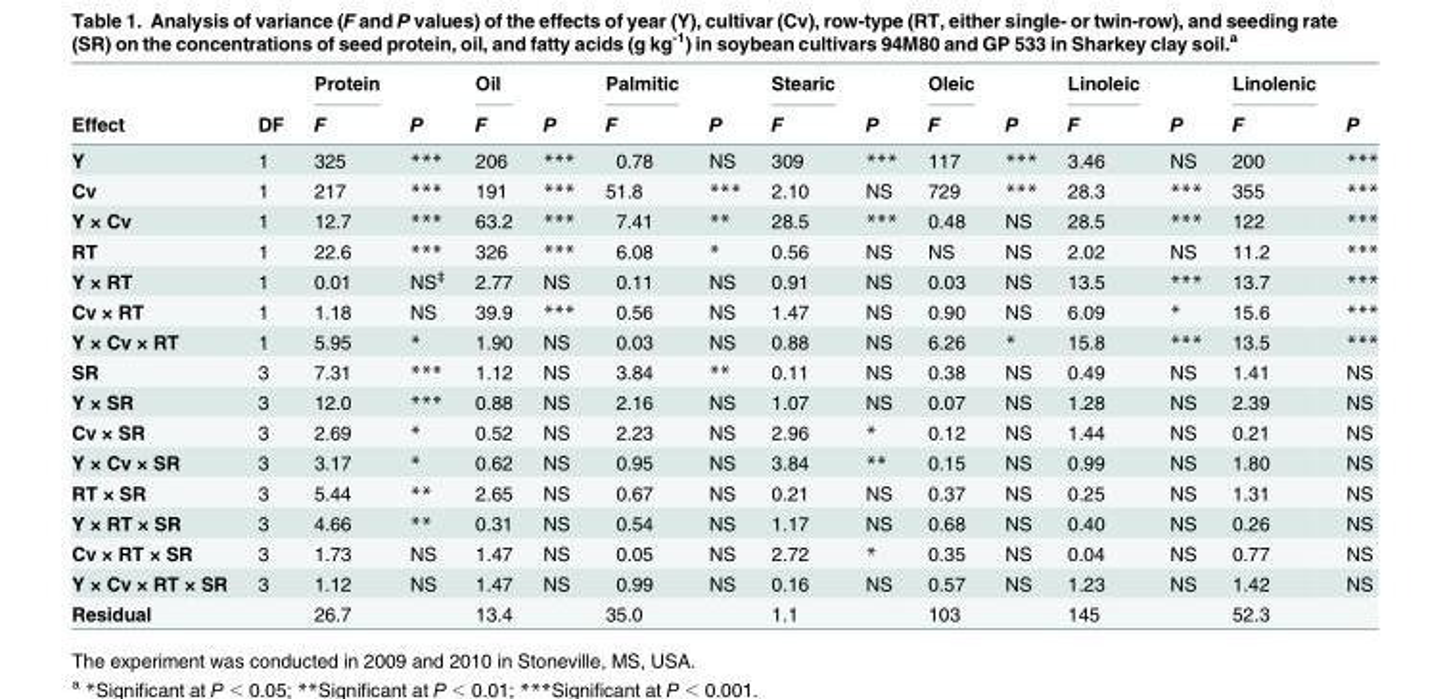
<table><thead><tr><td rowspan="2">Effect</td><td rowspan="2">DF</td><td rowspan="2">Protein F</td><td rowspan="2">P</td><td rowspan="2">Oil F</td><td rowspan="2">P</td><td rowspan="2">Palmitic F</td><td rowspan="2">P</td><td rowspan="2">Stearic F</td><td rowspan="2">P</td><td rowspan="2">Oleic F</td><td rowspan="2">P</td><td rowspan="2">Linoleic F</td><td rowspan="2">P</td><td rowspan="2">Linolenic F</td><td rowspan="2">P</td></tr><tr></tr></thead><tbody><tr><td>Y</td><td>1</td><td>325</td><td>***</td><td>206</td><td>***</td><td>0.78</td><td>NS</td><td>309</td><td>***</td><td>117</td><td>***</td><td>3.46</td><td>NS</td><td>200</td><td>***</td></tr><tr><td>Cv</td><td>1</td><td>217</td><td>***</td><td>191</td><td>***</td><td>51.8</td><td>***</td><td>2.10</td><td>NS</td><td>729</td><td>***</td><td>28.3</td><td>***</td><td>355</td><td>***</td></tr><tr><td>Y × Cv</td><td>1</td><td>12.7</td><td>***</td><td>63.2</td><td>***</td><td>7.41</td><td>**</td><td>28.5</td><td>***</td><td>0.48</td><td>NS</td><td>28.5</td><td>***</td><td>122</td><td>***</td></tr><tr><td>RT</td><td>1</td><td>22.6</td><td>***</td><td>326</td><td>***</td><td>6.08</td><td>*</td><td>0.56</td><td>NS</td><td>NS</td><td>NS</td><td>2.02</td><td>NS</td><td>11.2</td><td>***</td></tr><tr><td>Y × RT</td><td>1</td><td>0.01</td><td>NS<sup>‡</sup></td><td>2.77</td><td>NS</td><td>0.11</td><td>NS</td><td>0.91</td><td>NS</td><td>0.03</td><td>NS</td><td>13.5</td><td>***</td><td>13.7</td><td>***</td></tr><tr><td>Cv × RT</td><td>1</td><td>1.18</td><td>NS</td><td>39.9</td><td>***</td><td>0.56</td><td>NS</td><td>1.47</td><td>NS</td><td>0.90</td><td>NS</td><td>6.09</td><td>*</td><td>15.6</td><td>***</td></tr><tr><td>Y × Cv × RT</td><td>1</td><td>5.95</td><td>*</td><td>1.90</td><td>NS</td><td>0.03</td><td>NS</td><td>0.88</td><td>NS</td><td>6.26</td><td>*</td><td>15.8</td><td>***</td><td>13.5</td><td>***</td></tr><tr><td>SR</td><td>3</td><td>7.31</td><td>***</td><td>1.12</td><td>NS</td><td>3.84</td><td>**</td><td>0.11</td><td>NS</td><td>0.38</td><td>NS</td><td>0.49</td><td>NS</td><td>1.41</td><td>NS</td></tr><tr><td>Y × SR</td><td>3</td><td>12.0</td><td>***</td><td>0.88</td><td>NS</td><td>2.16</td><td>NS</td><td>1.07</td><td>NS</td><td>0.07</td><td>NS</td><td>1.28</td><td>NS</td><td>2.39</td><td>NS</td></tr><tr><td>Cv × SR</td><td>3</td><td>2.69</td><td>*</td><td>0.52</td><td>NS</td><td>2.23</td><td>NS</td><td>2.96</td><td>*</td><td>0.12</td><td>NS</td><td>1.44</td><td>NS</td><td>0.21</td><td>NS</td></tr><tr><td>Y × Cv × SR</td><td>3</td><td>3.17</td><td>*</td><td>0.62</td><td>NS</td><td>0.95</td><td>NS</td><td>3.84</td><td>**</td><td>0.15</td><td>NS</td><td>0.99</td><td>NS</td><td>1.80</td><td>NS</td></tr><tr><td>RT × SR</td><td>3</td><td>5.44</td><td>**</td><td>2.65</td><td>NS</td><td>0.67</td><td>NS</td><td>0.21</td><td>NS</td><td>0.37</td><td>NS</td><td>0.25</td><td>NS</td><td>1.31</td><td>NS</td></tr><tr><td>Y × RT × SR</td><td>3</td><td>4.66</td><td>**</td><td>0.31</td><td>NS</td><td>0.54</td><td>NS</td><td>1.17</td><td>NS</td><td>0.68</td><td>NS</td><td>0.40</td><td>NS</td><td>0.26</td><td>NS</td></tr><tr><td>Cv × RT × SR</td><td>3</td><td>1.73</td><td>NS</td><td>1.47</td><td>NS</td><td>0.05</td><td>NS</td><td>2.72</td><td>*</td><td>0.35</td><td>NS</td><td>0.04</td><td>NS</td><td>0.77</td><td>NS</td></tr><tr><td>Y × Cv × RT × SR</td><td>3</td><td>1.12</td><td>NS</td><td>1.47</td><td>NS</td><td>0.99</td><td>NS</td><td>0.16</td><td>NS</td><td>0.57</td><td>NS</td><td>1.23</td><td>NS</td><td>1.42</td><td>NS</td></tr><tr><td>Residual</td><td></td><td>26.7</td><td></td><td>13.4</td><td></td><td>35.0</td><td></td><td>1.1</td><td></td><td>103</td><td></td><td>145</td><td></td><td>52.3</td><td></td></tr></tbody></table>